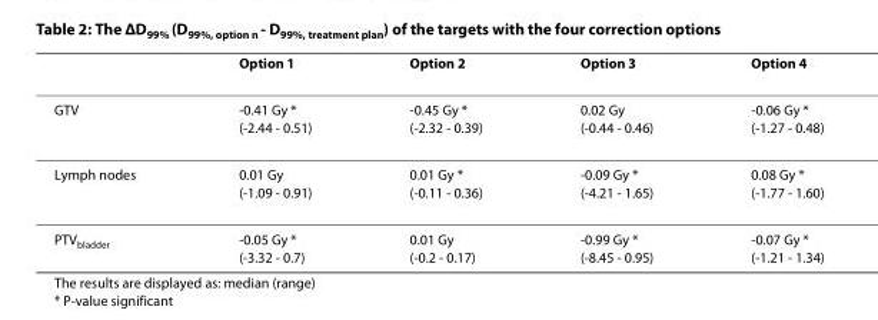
<table><thead><tr><td></td><td>Option 1</td><td>Option 2</td><td>Option 3</td><td>Option 4</td></tr></thead><tbody><tr><td>GTV</td><td>-0.41 Gy * (-2.44 - 0.51)</td><td>-0.45 Gy * (-2.32 - 0.39)</td><td>0.02 Gy (-0.44 - 0.46)</td><td>-0.06 Gy * (-1.27 - 0.48)</td></tr><tr><td>Lymph nodes</td><td>0.01 Gy (-1.09 - 0.91)</td><td>0.01 Gy * (-0.11 - 0.36)</td><td>-0.09 Gy * (-4.21 - 1.65)</td><td>0.08 Gy * (-1.77 - 1.60)</td></tr><tr><td>PTV<sub>bladder</sub></td><td>-0.05 Gy * (-3.32 - 0.7)</td><td>0.01 Gy (-0.2 - 0.17)</td><td>-0.99 Gy * (-8.45 - 0.95)</td><td>-0.07 Gy * (-1.21 - 1.34)</td></tr></tbody></table>